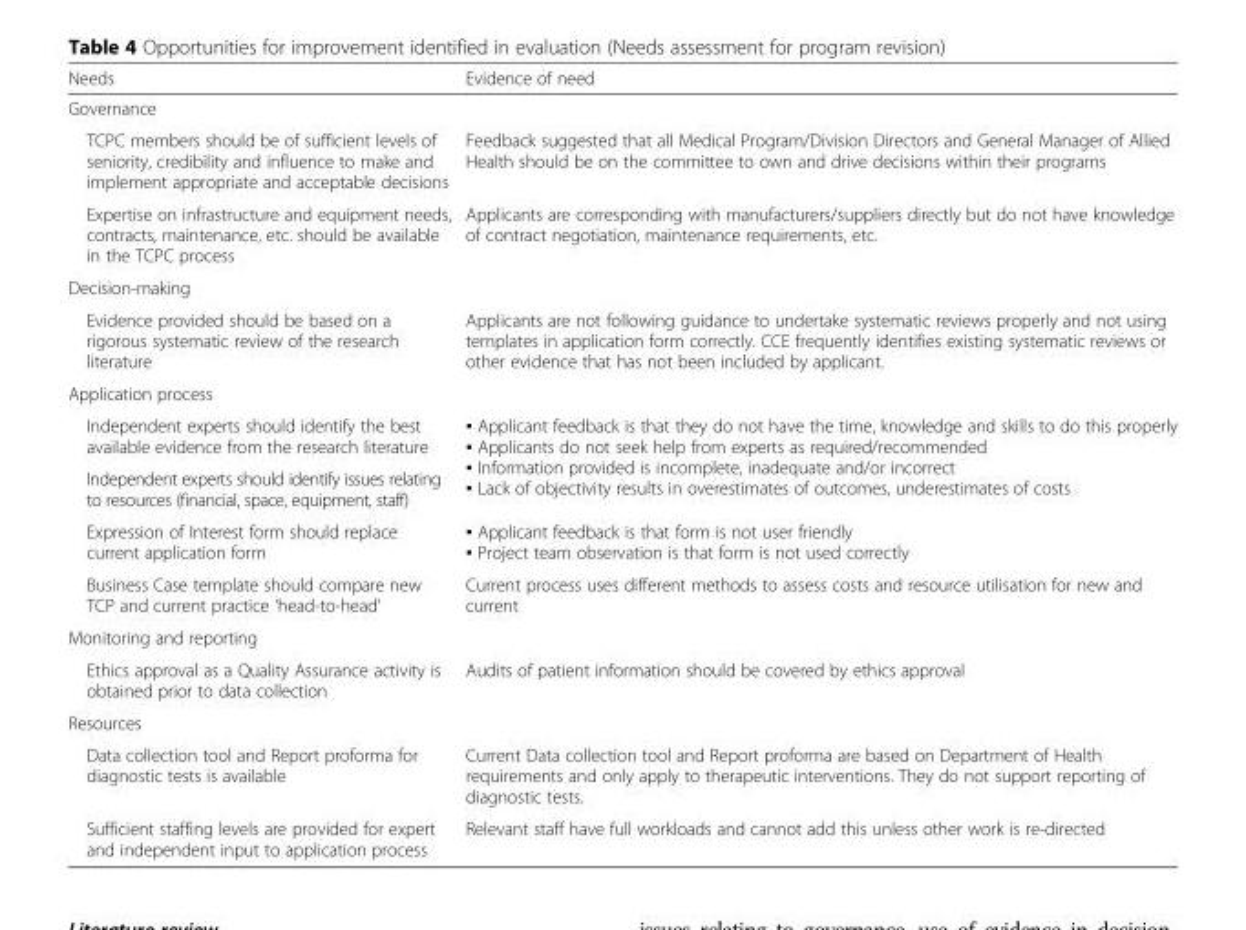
<table><thead><tr><td>Needs</td><td>Evidence of need</td></tr></thead><tbody><tr><td colspan="2">Governance</td></tr><tr><td>TCPC members should be of sufficient levels of seniority, credibility and influence to make and implement appropriate and acceptable decisions</td><td>Feedback suggested that all Medical Program/Division Directors and General Manager of Allied Health should be on the committee to own and drive decisions within their programs</td></tr><tr><td>Expertise on infrastructure and equipment needs, contracts, maintenance, etc. should be available in the TCPC process</td><td>Applicants are corresponding with manufacturers/suppliers directly but do not have knowledge of contract negotiation, maintenance requirements, etc.</td></tr><tr><td colspan="2">Decision-making</td></tr><tr><td>Evidence provided should be based on a rigorous systematic review of the research literature</td><td>Applicants are not following guidance to undertake systematic reviews properly and not using templates in application form correctly. CCE frequently identifies existing systematic reviews or other evidence that has not been included by applicant.</td></tr><tr><td colspan="2">Application process</td></tr><tr><td>Independent experts should identify the best available evidence from the research literature</td><td rowspan="2">▪ Applicant feedback is that they do not have the time, knowledge and skills to do this properly ▪ Applicants do not seek help from experts as required/recommended ▪ Information provided is incomplete, inadequate and/or incorrect ▪ Lack of objectivity results in overestimates of outcomes, underestimates of costs</td></tr><tr><td>Independent experts should identify issues relating to resources (financial, space, equipment, staff)</td></tr><tr><td>Expression of Interest form should replace current application form</td><td>▪ Applicant feedback is that form is not user friendly ▪ Project team observation is that form is not used correctly</td></tr><tr><td>Business Case template should compare new TCP and current practice ‘head-to-head’</td><td>Current process uses different methods to assess costs and resource utilisation for new and current</td></tr><tr><td colspan="2">Monitoring and reporting</td></tr><tr><td>Ethics approval as a Quality Assurance activity is obtained prior to data collection</td><td>Audits of patient information should be covered by ethics approval</td></tr><tr><td colspan="2">Resources</td></tr><tr><td>Data collection tool and Report proforma for diagnostic tests is available</td><td>Current Data collection tool and Report proforma are based on Department of Health requirements and only apply to therapeutic interventions. They do not support reporting of diagnostic tests.</td></tr><tr><td>Sufficient staffing levels are provided for expert and independent input to application process</td><td>Relevant staff have full workloads and cannot add this unless other work is re-directed</td></tr></tbody></table>